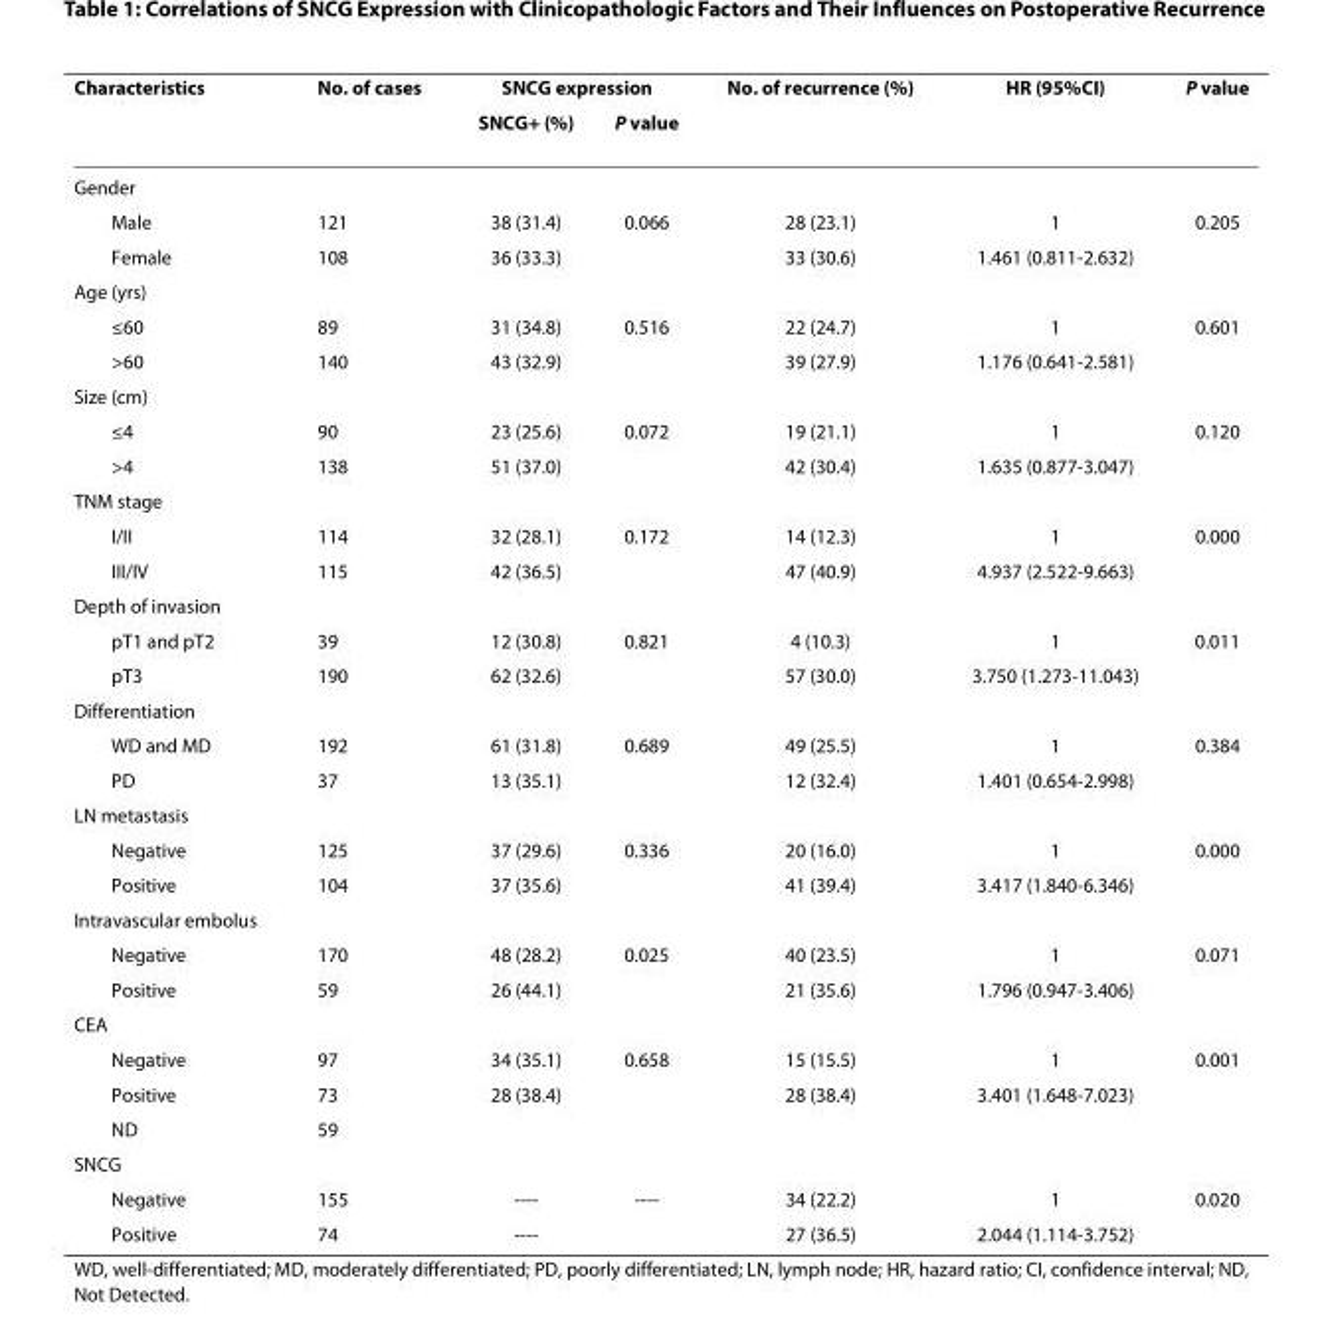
<table><thead><tr><td rowspan="2">Characteristics</td><td rowspan="2">No. of cases</td><td colspan="2">SNCG expression</td><td rowspan="2">No. of recurrence (%)</td><td rowspan="2">HR (95%CI)</td><td rowspan="2">P value</td></tr><tr><td>SNCG+ (%)</td><td>P value</td></tr></thead><tbody><tr><td colspan="7">Gender</td></tr><tr><td>Male</td><td>121</td><td>38 (31.4)</td><td>0.066</td><td>28 (23.1)</td><td>1</td><td>0.205</td></tr><tr><td>Female</td><td>108</td><td>36 (33.3)</td><td></td><td>33 (30.6)</td><td>1.461 (0.811-2.632)</td><td></td></tr><tr><td colspan="7">Age (yrs)</td></tr><tr><td>≤60</td><td>89</td><td>31 (34.8)</td><td>0.516</td><td>22 (24.7)</td><td>1</td><td>0.601</td></tr><tr><td>&gt;60</td><td>140</td><td>43 (32.9)</td><td></td><td>39 (27.9)</td><td>1.176 (0.641-2.581)</td><td></td></tr><tr><td colspan="7">Size (cm)</td></tr><tr><td>≤4</td><td>90</td><td>23 (25.6)</td><td>0.072</td><td>19 (21.1)</td><td>1</td><td>0.120</td></tr><tr><td>&gt;4</td><td>138</td><td>51 (37.0)</td><td></td><td>42 (30.4)</td><td>1.635 (0.877-3.047)</td><td></td></tr><tr><td colspan="7">TNM stage</td></tr><tr><td>I/II</td><td>114</td><td>32 (28.1)</td><td>0.172</td><td>14 (12.3)</td><td>1</td><td>0.000</td></tr><tr><td>III/IV</td><td>115</td><td>42 (36.5)</td><td></td><td>47 (40.9)</td><td>4.937 (2.522-9.663)</td><td></td></tr><tr><td colspan="7">Depth of invasion</td></tr><tr><td>pT1 and pT2</td><td>39</td><td>12 (30.8)</td><td>0.821</td><td>4 (10.3)</td><td>1</td><td>0.011</td></tr><tr><td>pT3</td><td>190</td><td>62 (32.6)</td><td></td><td>57 (30.0)</td><td>3.750 (1.273-11.043)</td><td></td></tr><tr><td colspan="7">Differentiation</td></tr><tr><td>WD and MD</td><td>192</td><td>61 (31.8)</td><td>0.689</td><td>49 (25.5)</td><td>1</td><td>0.384</td></tr><tr><td>PD</td><td>37</td><td>13 (35.1)</td><td></td><td>12 (32.4)</td><td>1.401 (0.654-2.998)</td><td></td></tr><tr><td colspan="7">LN metastasis</td></tr><tr><td>Negative</td><td>125</td><td>37 (29.6)</td><td>0.336</td><td>20 (16.0)</td><td>1</td><td>0.000</td></tr><tr><td>Positive</td><td>104</td><td>37 (35.6)</td><td></td><td>41 (39.4)</td><td>3.417 (1.840-6.346)</td><td></td></tr><tr><td colspan="7">Intravascular embolus</td></tr><tr><td>Negative</td><td>170</td><td>48 (28.2)</td><td>0.025</td><td>40 (23.5)</td><td>1</td><td>0.071</td></tr><tr><td>Positive</td><td>59</td><td>26 (44.1)</td><td></td><td>21 (35.6)</td><td>1.796 (0.947-3.406)</td><td></td></tr><tr><td colspan="7">CEA</td></tr><tr><td>Negative</td><td>97</td><td>34 (35.1)</td><td>0.658</td><td>15 (15.5)</td><td>1</td><td>0.001</td></tr><tr><td>Positive</td><td>73</td><td>28 (38.4)</td><td></td><td>28 (38.4)</td><td>3.401 (1.648-7.023)</td><td></td></tr><tr><td>ND</td><td>59</td><td></td><td></td><td></td><td></td><td></td></tr><tr><td colspan="7">SNCG</td></tr><tr><td>Negative</td><td>155</td><td>----</td><td>----</td><td>34 (22.2)</td><td>1</td><td>0.020</td></tr><tr><td>Positive</td><td>74</td><td>----</td><td></td><td>27 (36.5)</td><td>2.044 (1.114-3.752)</td><td></td></tr></tbody></table>